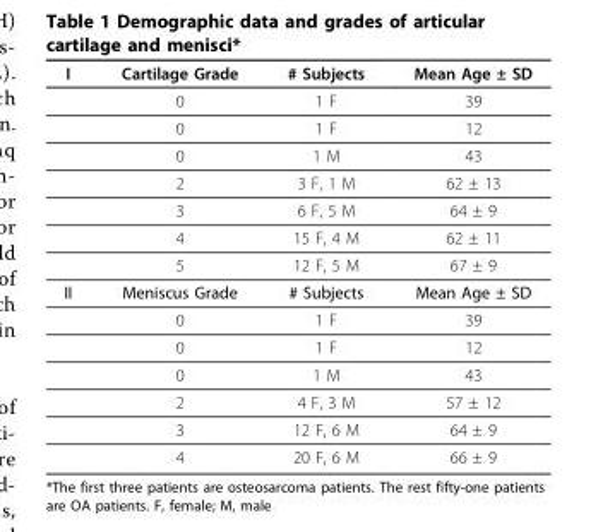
<table><thead><tr><td>I</td><td>Cartilage Grade</td><td># Subjects</td><td>Mean Age ± SD</td></tr></thead><tbody><tr><td></td><td>0</td><td>1 F</td><td>39</td></tr><tr><td></td><td>0</td><td>1 F</td><td>12</td></tr><tr><td></td><td>0</td><td>1 M</td><td>43</td></tr><tr><td></td><td>2</td><td>3 F, 1 M</td><td>62 ± 13</td></tr><tr><td></td><td>3</td><td>6 F, 5 M</td><td>64 ± 9</td></tr><tr><td></td><td>4</td><td>15 F, 4 M</td><td>62 ± 11</td></tr><tr><td></td><td>5</td><td>12 F, 5 M</td><td>67 ± 9</td></tr><tr><td rowspan="7">II</td><td>Meniscus Grade</td><td># Subjects</td><td>Mean Age ± SD</td></tr><tr><td>0</td><td>1 F</td><td>39</td></tr><tr><td>0</td><td>1 F</td><td>12</td></tr><tr><td>0</td><td>1 M</td><td>43</td></tr><tr><td>2</td><td>4 F, 3 M</td><td>57 ± 12</td></tr><tr><td>3</td><td>12 F, 6 M</td><td>64 ± 9</td></tr><tr><td>4</td><td>20 F, 6 M</td><td>66 ± 9</td></tr></tbody></table>